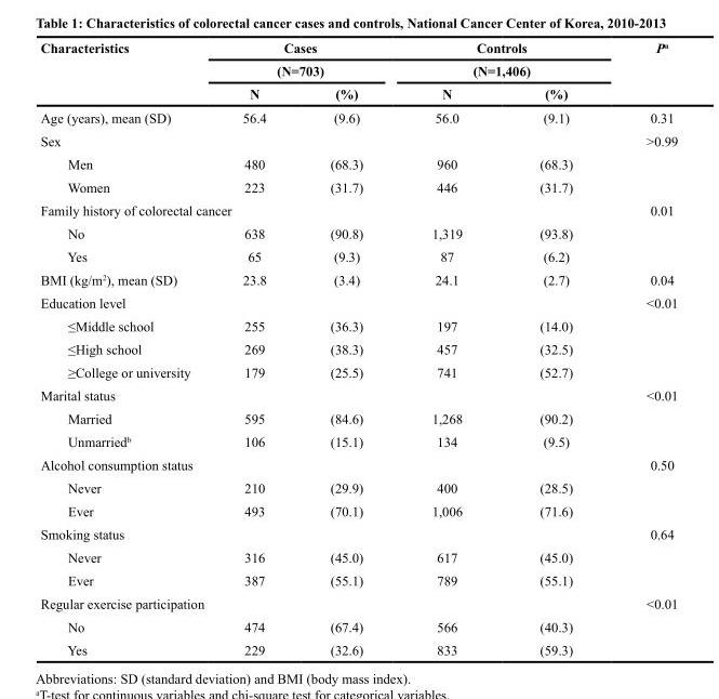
<table><thead><tr><td rowspan="3">Characteristics</td><td rowspan="2" colspan="2">Cases (N=703)</td><td rowspan="2" colspan="2">Controls (N=1,406)</td><td rowspan="3">P<sup>a</sup></td></tr><tr></tr><tr><td>N</td><td>(%)</td><td>N</td><td>(%)</td></tr></thead><tbody><tr><td>Age (years), mean (SD)</td><td>56.4</td><td>(9.6)</td><td>56.0</td><td>(9.1)</td><td>0.31</td></tr><tr><td colspan="5">Sex</td><td>&gt;0.99</td></tr><tr><td>Men</td><td>480</td><td>(68.3)</td><td>960</td><td>(68.3)</td><td></td></tr><tr><td>Women</td><td>223</td><td>(31.7)</td><td>446</td><td>(31.7)</td><td></td></tr><tr><td colspan="5">Family history of colorectal cancer</td><td>0.01</td></tr><tr><td>No</td><td>638</td><td>(90.8)</td><td>1,319</td><td>(93.8)</td><td></td></tr><tr><td>Yes</td><td>65</td><td>(9.3)</td><td>87</td><td>(6.2)</td><td></td></tr><tr><td>BMI (kg/m<sup>2</sup>), mean (SD)</td><td>23.8</td><td>(3.4)</td><td>24.1</td><td>(2.7)</td><td>0.04</td></tr><tr><td colspan="5">Education level</td><td>&lt;0.01</td></tr><tr><td>≤Middle school</td><td>255</td><td>(36.3)</td><td>197</td><td>(14.0)</td><td></td></tr><tr><td>≤High school</td><td>269</td><td>(38.3)</td><td>457</td><td>(32.5)</td><td></td></tr><tr><td>≥College or university</td><td>179</td><td>(25.5)</td><td>741</td><td>(52.7)</td><td></td></tr><tr><td colspan="5">Marital status</td><td>&lt;0.01</td></tr><tr><td>Married</td><td>595</td><td>(84.6)</td><td>1,268</td><td>(90.2)</td><td></td></tr><tr><td>Unmarried<sup>b</sup></td><td>106</td><td>(15.1)</td><td>134</td><td>(9.5)</td><td></td></tr><tr><td colspan="5">Alcohol consumption status</td><td>0.50</td></tr><tr><td>Never</td><td>210</td><td>(29.9)</td><td>400</td><td>(28.5)</td><td></td></tr><tr><td>Ever</td><td>493</td><td>(70.1)</td><td>1,006</td><td>(71.6)</td><td></td></tr><tr><td colspan="5">Smoking status</td><td>0.64</td></tr><tr><td>Never</td><td>316</td><td>(45.0)</td><td>617</td><td>(45.0)</td><td></td></tr><tr><td>Ever</td><td>387</td><td>(55.1)</td><td>789</td><td>(55.1)</td><td></td></tr><tr><td colspan="5">Regular exercise participation</td><td>&lt;0.01</td></tr><tr><td>No</td><td>474</td><td>(67.4)</td><td>566</td><td>(40.3)</td><td></td></tr><tr><td>Yes</td><td>229</td><td>(32.6)</td><td>833</td><td>(59.3)</td><td></td></tr></tbody></table>